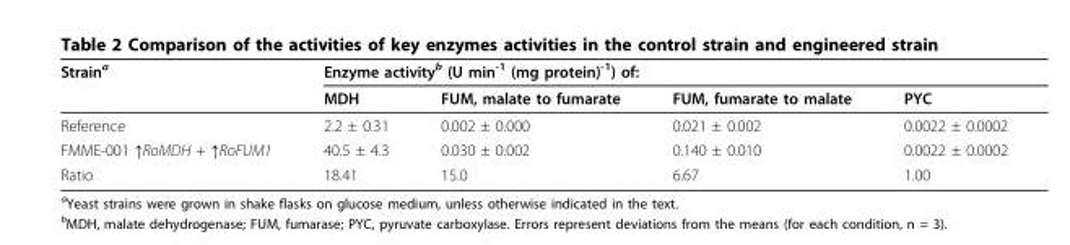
<table><thead><tr><td rowspan="2">Strain<sup>a</sup></td><td colspan="4">Enzyme activity<sup>b</sup> (U min<sup>-1</sup> (mg protein)<sup>-1</sup>) of:</td></tr><tr><td>MDH</td><td>FUM, malate to fumarate</td><td>FUM, fumarate to malate</td><td>PYC</td></tr></thead><tbody><tr><td>Reference</td><td>2.2 ± 0.31</td><td>0.002 ± 0.000</td><td>0.021 ± 0.002</td><td>0.0022 ± 0.0002</td></tr><tr><td>FMME-001 ↑RoMDH + ↑RoFUM1</td><td>40.5 ± 4.3</td><td>0.030 ± 0.002</td><td>0.140 ± 0.010</td><td>0.0022 ± 0.0002</td></tr><tr><td>Ratio</td><td>18.41</td><td>15.0</td><td>6.67</td><td>1.00</td></tr></tbody></table>